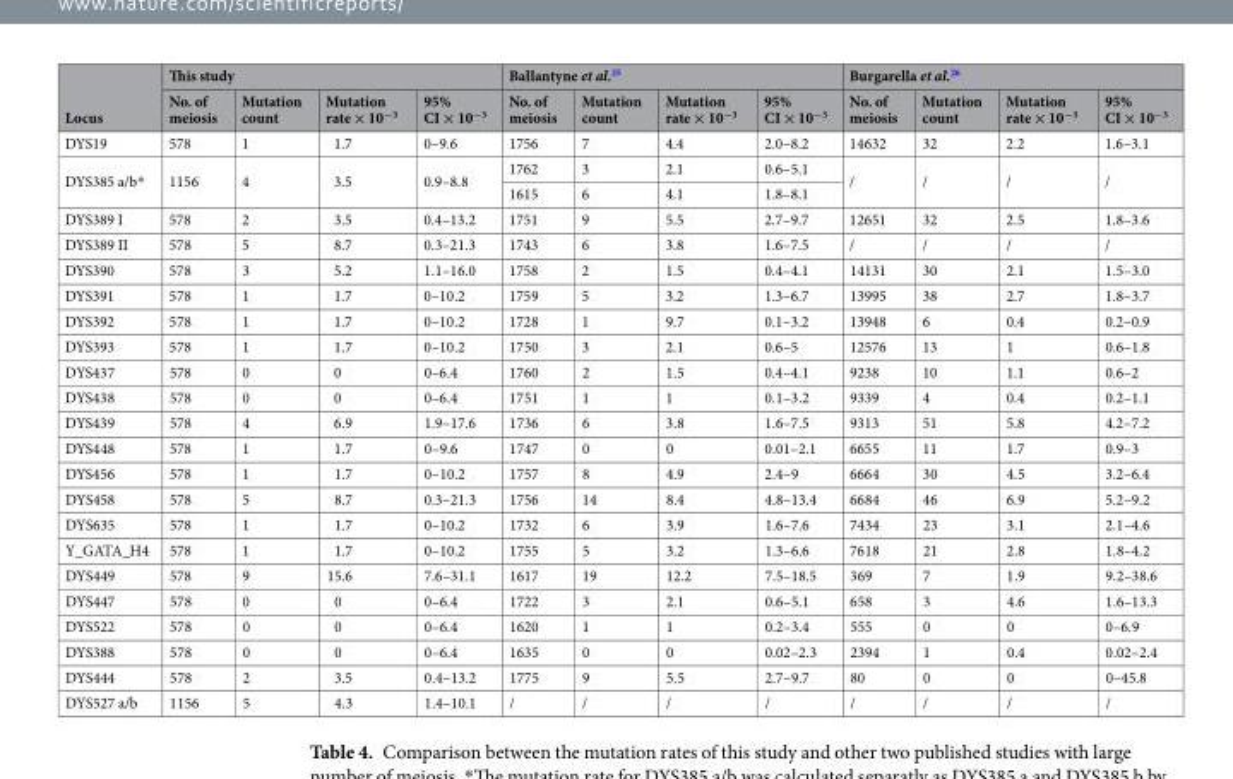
<table><thead><tr><td rowspan="2">Locus</td><td colspan="4">This study</td><td colspan="4">Ballantyne et al.<sup>25</sup></td><td colspan="4">Burgarella et al.<sup>26</sup></td></tr><tr><td>No. of meiosis</td><td>Mutation count</td><td>Mutation rate × 10<sup>−3</sup></td><td>95% CI × 10<sup>−3</sup></td><td>No. of meiosis</td><td>Mutation count</td><td>Mutation rate × 10<sup>−3</sup></td><td>95% CI × 10<sup>−3</sup></td><td>No. of meiosis</td><td>Mutation count</td><td>Mutation rate × 10<sup>−3</sup></td><td>95% CI × 10<sup>−3</sup></td></tr></thead><tbody><tr><td>DYS19</td><td>578</td><td>1</td><td>1.7</td><td>0–9.6</td><td>1756</td><td>7</td><td>4.4</td><td>2.0–8.2</td><td>14632</td><td>32</td><td>2.2</td><td>1.6–3.1</td></tr><tr><td rowspan="2">DYS385 a/b*</td><td rowspan="2">1156</td><td rowspan="2">4</td><td rowspan="2">3.5</td><td rowspan="2">0.9–8.8</td><td>1762</td><td>3</td><td>2.1</td><td>0.6–5.1</td><td rowspan="2">/</td><td rowspan="2">/</td><td rowspan="2">/</td><td rowspan="2">/</td></tr><tr><td>1615</td><td>6</td><td>4.1</td><td>1.8–8.1</td></tr><tr><td>DYS389 I</td><td>578</td><td>2</td><td>3.5</td><td>0.4–13.2</td><td>1751</td><td>9</td><td>5.5</td><td>2.7–9.7</td><td>12651</td><td>32</td><td>2.5</td><td>1.8–3.6</td></tr><tr><td>DYS389 II</td><td>578</td><td>5</td><td>8.7</td><td>0.3–21.3</td><td>1743</td><td>6</td><td>3.8</td><td>1.6–7.5</td><td>/</td><td>/</td><td>/</td><td>/</td></tr><tr><td>DYS390</td><td>578</td><td>3</td><td>5.2</td><td>1.1–16.0</td><td>1758</td><td>2</td><td>1.5</td><td>0.4–4.1</td><td>14131</td><td>30</td><td>2.1</td><td>1.5–3.0</td></tr><tr><td>DYS391</td><td>578</td><td>1</td><td>1.7</td><td>0–10.2</td><td>1759</td><td>5</td><td>3.2</td><td>1.3–6.7</td><td>13995</td><td>38</td><td>2.7</td><td>1.8–3.7</td></tr><tr><td>DYS392</td><td>578</td><td>1</td><td>1.7</td><td>0–10.2</td><td>1728</td><td>1</td><td>9.7</td><td>0.1–3.2</td><td>13948</td><td>6</td><td>0.4</td><td>0.2–0.9</td></tr><tr><td>DYS393</td><td>578</td><td>1</td><td>1.7</td><td>0–10.2</td><td>1750</td><td>3</td><td>2.1</td><td>0.6–5</td><td>12576</td><td>13</td><td>1</td><td>0.6–1.8</td></tr><tr><td>DYS437</td><td>578</td><td>0</td><td>0</td><td>0–6.4</td><td>1760</td><td>2</td><td>1.5</td><td>0.4–4.1</td><td>9238</td><td>10</td><td>1.1</td><td>0.6–2</td></tr><tr><td>DYS438</td><td>578</td><td>0</td><td>0</td><td>0–6.4</td><td>1751</td><td>1</td><td>1</td><td>0.1–3.2</td><td>9339</td><td>4</td><td>0.4</td><td>0.2–1.1</td></tr><tr><td>DYS439</td><td>578</td><td>4</td><td>6.9</td><td>1.9–17.6</td><td>1736</td><td>6</td><td>3.8</td><td>1.6–7.5</td><td>9313</td><td>51</td><td>5.8</td><td>4.2–7.2</td></tr><tr><td>DYS448</td><td>578</td><td>1</td><td>1.7</td><td>0–9.6</td><td>1747</td><td>0</td><td>0</td><td>0.01–2.1</td><td>6655</td><td>11</td><td>1.7</td><td>0.9–3</td></tr><tr><td>DYS456</td><td>578</td><td>1</td><td>1.7</td><td>0–10.2</td><td>1757</td><td>8</td><td>4.9</td><td>2.4–9</td><td>6664</td><td>30</td><td>4.5</td><td>3.2–6.4</td></tr><tr><td>DYS458</td><td>578</td><td>5</td><td>8.7</td><td>0.3–21.3</td><td>1756</td><td>14</td><td>8.4</td><td>4.8–13.4</td><td>6684</td><td>46</td><td>6.9</td><td>5.2–9.2</td></tr><tr><td>DYS635</td><td>578</td><td>1</td><td>1.7</td><td>0–10.2</td><td>1732</td><td>6</td><td>3.9</td><td>1.6–7.6</td><td>7434</td><td>23</td><td>3.1</td><td>2.1–4.6</td></tr><tr><td>Y_GATA_H4</td><td>578</td><td>1</td><td>1.7</td><td>0–10.2</td><td>1755</td><td>5</td><td>3.2</td><td>1.3–6.6</td><td>7618</td><td>21</td><td>2.8</td><td>1.8–4.2</td></tr><tr><td>DYS449</td><td>578</td><td>9</td><td>15.6</td><td>7.6–31.1</td><td>1617</td><td>19</td><td>12.2</td><td>7.5–18.5</td><td>369</td><td>7</td><td>1.9</td><td>9.2–38.6</td></tr><tr><td>DYS447</td><td>578</td><td>0</td><td>0</td><td>0–6.4</td><td>1722</td><td>3</td><td>2.1</td><td>0.6–5.1</td><td>658</td><td>3</td><td>4.6</td><td>1.6–13.3</td></tr><tr><td>DYS522</td><td>578</td><td>0</td><td>0</td><td>0–6.4</td><td>1620</td><td>1</td><td>1</td><td>0.2–3.4</td><td>555</td><td>0</td><td>0</td><td>0–6.9</td></tr><tr><td>DYS388</td><td>578</td><td>0</td><td>0</td><td>0–6.4</td><td>1635</td><td>0</td><td>0</td><td>0.02–2.3</td><td>2394</td><td>1</td><td>0.4</td><td>0.02–2.4</td></tr><tr><td>DYS444</td><td>578</td><td>2</td><td>3.5</td><td>0.4–13.2</td><td>1775</td><td>9</td><td>5.5</td><td>2.7–9.7</td><td>80</td><td>0</td><td>0</td><td>0–45.8</td></tr><tr><td>DYS527 a/b</td><td>1156</td><td>5</td><td>4.3</td><td>1.4–10.1</td><td>/</td><td>/</td><td>/</td><td>/</td><td>/</td><td>/</td><td>/</td><td>/</td></tr></tbody></table>